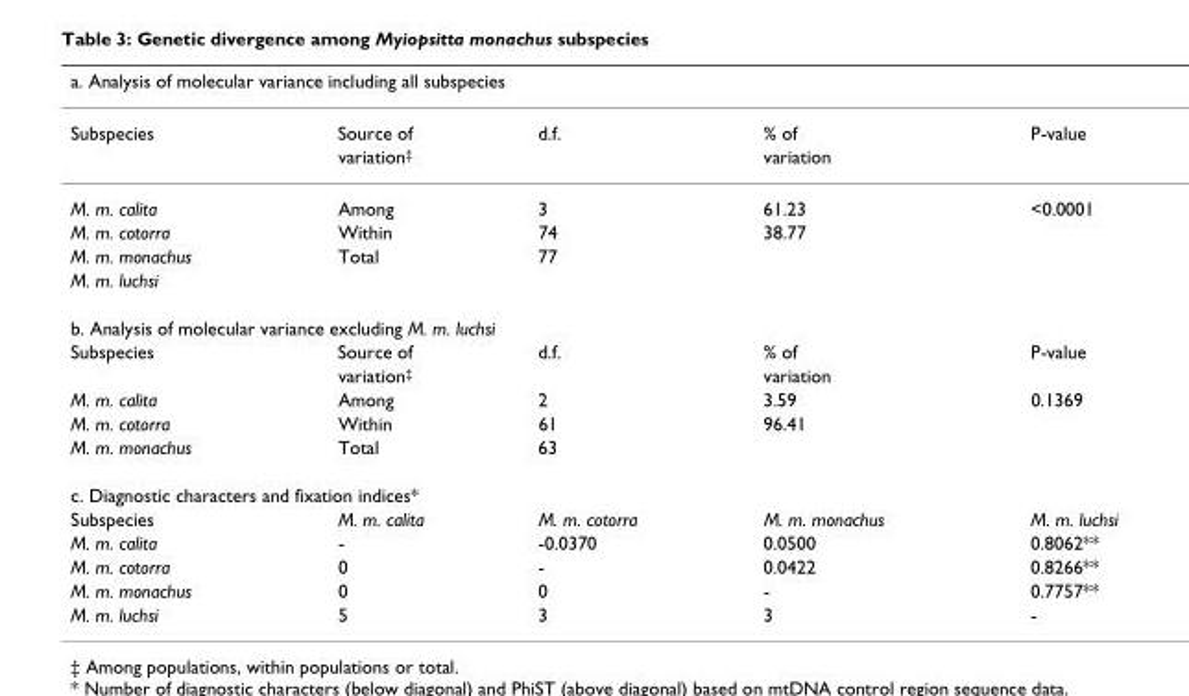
<table><thead><tr><td colspan="5">a. Analysis of molecular variance including all subspecies</td></tr><tr><td>Subspecies</td><td>Source of</td><td>d.f.</td><td>% of</td><td>P-value</td></tr></thead><tbody><tr><td></td><td>variation<sup>‡</sup></td><td></td><td>variation</td><td></td></tr><tr><td>M. m. calita</td><td>Among</td><td>3</td><td>61.23</td><td>&lt;0.0001</td></tr><tr><td>M. m. cotorra</td><td>Within</td><td>74</td><td>38.77</td><td></td></tr><tr><td>M. m. monachus</td><td>Total</td><td>77</td><td></td><td></td></tr><tr><td colspan="5">M. m. luchsi</td></tr><tr><td colspan="5">b. Analysis of molecular variance excluding M. m. luchsi</td></tr><tr><td rowspan="2">Subspecies</td><td>Source of</td><td>d.f.</td><td>% of</td><td>P-value</td></tr><tr><td>variation<sup>‡</sup></td><td></td><td>variation</td><td></td></tr><tr><td>M. m. calita</td><td>Among</td><td>2</td><td>3.59</td><td>0.1369</td></tr><tr><td>M. m. cotorra</td><td>Within</td><td>61</td><td>96.41</td><td></td></tr><tr><td>M. m. monachus</td><td>Total</td><td>63</td><td></td><td></td></tr><tr><td colspan="5">c. Diagnostic characters and fixation indices*</td></tr><tr><td>Subspecies</td><td>M. m. calita</td><td>M. m. cotorra</td><td>M. m. monachus</td><td>M. m. luchsi</td></tr><tr><td>M. m. calita</td><td>-</td><td>-0.0370</td><td>0.0500</td><td>0.8062**</td></tr><tr><td>M. m. cotorra</td><td>0</td><td>-</td><td>0.0422</td><td>0.8266**</td></tr><tr><td>M. m. monachus</td><td>0</td><td>0</td><td>-</td><td>0.7757**</td></tr><tr><td>M. m. luchsi</td><td>5</td><td>3</td><td>3</td><td>-</td></tr></tbody></table>